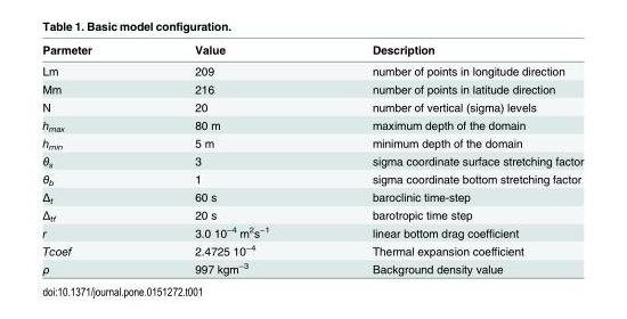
<table><thead><tr><td>Parmeter</td><td>Value</td><td>Description</td></tr></thead><tbody><tr><td>Lm</td><td>209</td><td>number of points in longitude direction</td></tr><tr><td>Mm</td><td>216</td><td>number of points in latitude direction</td></tr><tr><td>N</td><td>20</td><td>number of vertical (sigma) levels</td></tr><tr><td>h<sub>max</sub></td><td>80 m</td><td>maximum depth of the domain</td></tr><tr><td>h<sub>min</sub></td><td>5 m</td><td>minimum depth of the domain</td></tr><tr><td>θ<sub>s</sub></td><td>3</td><td>sigma coordinate surface stretching factor</td></tr><tr><td>θ<sub>b</sub></td><td>1</td><td>sigma coordinate bottom stretching factor</td></tr><tr><td>Δ<sub>t</sub></td><td>60 s</td><td>baroclinic time-step</td></tr><tr><td>Δ<sub>tf</sub></td><td>20 s</td><td>barotropic time step</td></tr><tr><td>r</td><td>3.0 10<sup>−4</sup> m<sup>2</sup>s<sup>−1</sup></td><td>linear bottom drag coefficient</td></tr><tr><td>Tcoef</td><td>2.4725 10<sup>−4</sup></td><td>Thermal expansion coefficient</td></tr><tr><td>ρ</td><td>997 kgm<sup>−3</sup></td><td>Background density value</td></tr></tbody></table>